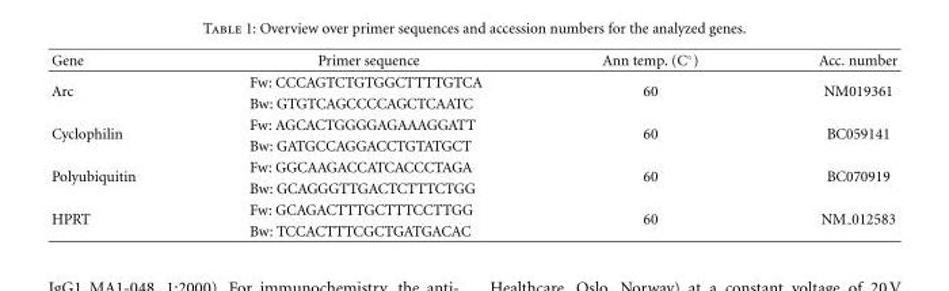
<table><thead><tr><td>Gene</td><td>Primer sequence</td><td>Ann temp. (C◦)</td><td>Acc. number</td></tr></thead><tbody><tr><td rowspan="2">Arc</td><td>Fw: CCCAGTCTGTGGCTTTTGTCA</td><td rowspan="2">60</td><td rowspan="2">NM019361</td></tr><tr><td>Bw: GTGTCAGCCCCAGCTCAATC</td></tr><tr><td rowspan="2">Cyclophilin</td><td>Fw: AGCACTGGGGAGAAAGGATT</td><td rowspan="2">60</td><td rowspan="2">BC059141</td></tr><tr><td>Bw: GATGCCAGGACCTGTATGCT</td></tr><tr><td rowspan="2">Polyubiquitin</td><td>Fw: GGCAAGACCATCACCCTAGA</td><td rowspan="2">60</td><td rowspan="2">BC070919</td></tr><tr><td>Bw: GCAGGGTTGACTCTTTCTGG</td></tr><tr><td rowspan="2">HPRT</td><td>Fw: GCAGACTTTGCTTTCCTTGG</td><td rowspan="2">60</td><td rowspan="2">NM 012583</td></tr><tr><td>Bw: TCCACTTTCGCTGATGACAC</td></tr></tbody></table>